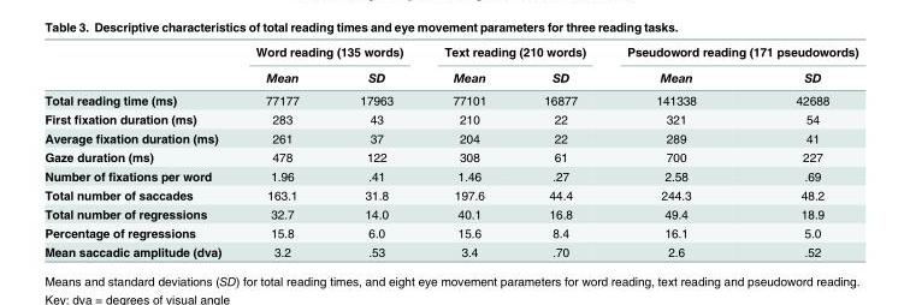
<table><thead><tr><td rowspan="2"></td><td colspan="2">Word reading (135 words)</td><td colspan="2">Text reading (210 words)</td><td colspan="2">Pseudoword reading (171 pseudowords)</td></tr><tr><td>Mean</td><td>SD</td><td>Mean</td><td>SD</td><td>Mean</td><td>SD</td></tr></thead><tbody><tr><td>Total reading time (ms)</td><td>77177</td><td>17963</td><td>77101</td><td>16877</td><td>141338</td><td>42688</td></tr><tr><td>First fixation duration (ms)</td><td>283</td><td>43</td><td>210</td><td>22</td><td>321</td><td>54</td></tr><tr><td>Average fixation duration (ms)</td><td>261</td><td>37</td><td>204</td><td>22</td><td>289</td><td>41</td></tr><tr><td>Gaze duration (ms)</td><td>478</td><td>122</td><td>308</td><td>61</td><td>700</td><td>227</td></tr><tr><td>Number of fixations per word</td><td>1.96</td><td>.41</td><td>1.46</td><td>.27</td><td>2.58</td><td>.69</td></tr><tr><td>Total number of saccades</td><td>163.1</td><td>31.8</td><td>197.6</td><td>44.4</td><td>244.3</td><td>48.2</td></tr><tr><td>Total number of regressions</td><td>32.7</td><td>14.0</td><td>40.1</td><td>16.8</td><td>49.4</td><td>18.9</td></tr><tr><td>Percentage of regressions</td><td>15.8</td><td>6.0</td><td>15.6</td><td>8.4</td><td>16.1</td><td>5.0</td></tr><tr><td>Mean saccadic amplitude (dva)</td><td>3.2</td><td>.53</td><td>3.4</td><td>.70</td><td>2.6</td><td>.52</td></tr></tbody></table>